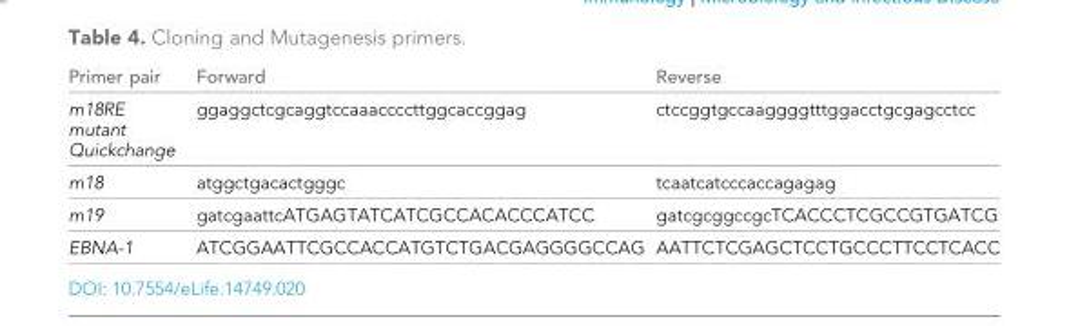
<table><thead><tr><td>Primer pair</td><td>Forward</td><td>Reverse</td></tr></thead><tbody><tr><td>m18RE mutant Quickchange</td><td>ggaggctcgcaggtccaaaccccttggcaccggag</td><td>ctccggtgccaaggggtttggacctgcgagcctcc</td></tr><tr><td>m18</td><td>atggctgacactgggc</td><td>tcaatcatcccaccagagag</td></tr><tr><td>m19</td><td>gatcgaattcATGAGTATCATCGCCACACCCATCC</td><td>gatcgcggccgcTCACCCTCGCCGTGATCG</td></tr><tr><td>EBNA-1</td><td>ATCGGAATTCGCCACCATGTCTGACGAGGGGCCAG</td><td>AATTCTCGAGCTCCTGCCCTTCCTCACC</td></tr></tbody></table>